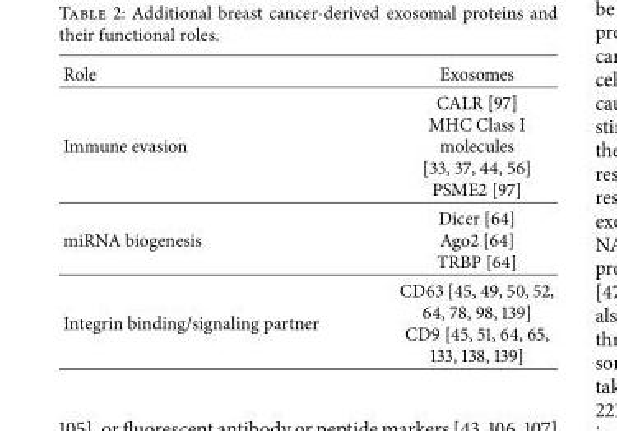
<table><thead><tr><td>Role</td><td>Exosomes</td></tr></thead><tbody><tr><td>Immune evasion</td><td>CALR [97] MHC Class I molecules [33, 37, 44, 56] PSME2 [97]</td></tr><tr><td>miRNA biogenesis</td><td>Dicer [64] Ago2 [64] TRBP [64]</td></tr><tr><td>Integrin binding/signaling partner</td><td>CD63 [45, 49, 50, 52, 64, 78, 98, 139] CD9 [45, 51, 64, 65, 133, 138, 139]</td></tr></tbody></table>